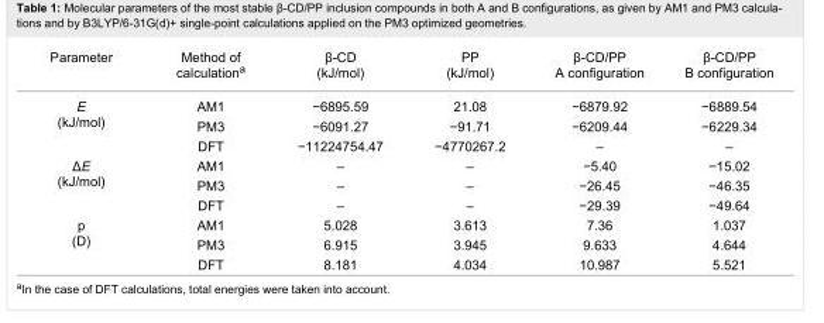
<table><tbody><tr><td>Parameter</td><td>Method of calculation<sup>a</sup></td><td>β-CD (kJ/mol)</td><td>PP (kJ/mol)</td><td>β-CD/PP A configuration</td><td>β-CD/PP B configuration</td></tr><tr><td rowspan="3">E (kJ/mol)</td><td>AM1</td><td>−6895.59</td><td>21.08</td><td>−6879.92</td><td>−6889.54</td></tr><tr><td>PM3</td><td>−6091.27</td><td>−91.71</td><td>−6209.44</td><td>−6229.34</td></tr><tr><td>DFT</td><td>−11224754.47</td><td>−4770267.2</td><td>–</td><td>–</td></tr><tr><td rowspan="3">ΔE (kJ/mol)</td><td>AM1</td><td>–</td><td>–</td><td>−5.40</td><td>−15.02</td></tr><tr><td>PM3</td><td>–</td><td>–</td><td>−26.45</td><td>−46.35</td></tr><tr><td>DFT</td><td>–</td><td>–</td><td>−29.39</td><td>−49.64</td></tr><tr><td rowspan="3">p (D)</td><td>AM1</td><td>5.028</td><td>3.613</td><td>7.36</td><td>1.037</td></tr><tr><td>PM3</td><td>6.915</td><td>3.945</td><td>9.633</td><td>4.644</td></tr><tr><td>DFT</td><td>8.181</td><td>4.034</td><td>10.987</td><td>5.521</td></tr></tbody></table>